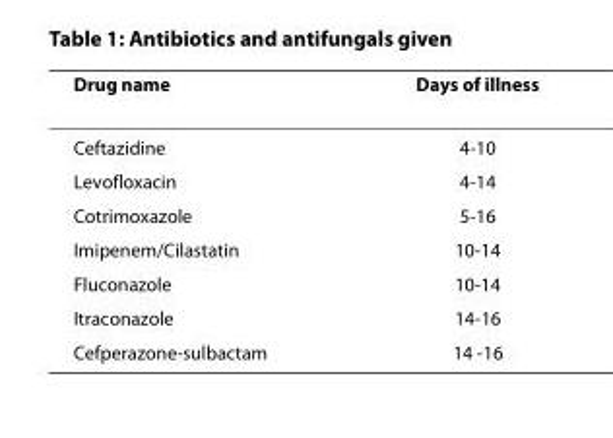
<table><thead><tr><td>Drug name</td><td>Days of illness</td></tr></thead><tbody><tr><td>Ceftazidine</td><td>4-10</td></tr><tr><td>Levofloxacin</td><td>4-14</td></tr><tr><td>Cotrimoxazole</td><td>5-16</td></tr><tr><td>Imipenem/Cilastatin</td><td>10-14</td></tr><tr><td>Fluconazole</td><td>10-14</td></tr><tr><td>Itraconazole</td><td>14-16</td></tr><tr><td>Cefperazone-sulbactam</td><td>14 -16</td></tr></tbody></table>